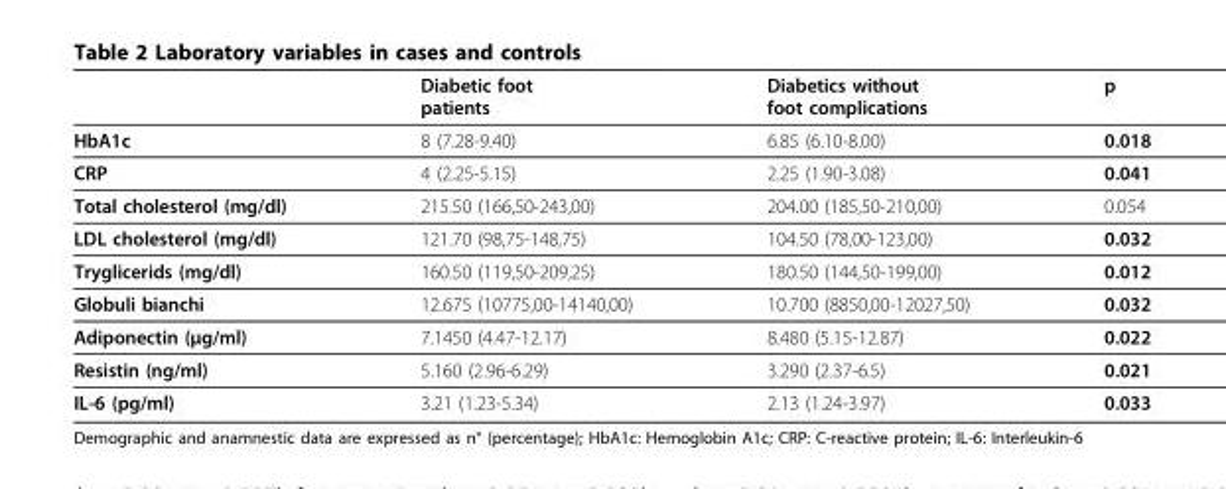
<table><thead><tr><td></td><td>Diabetic foot patients</td><td>Diabetics without foot complications</td><td>p</td></tr></thead><tbody><tr><td>HbA1c</td><td>8 (7.28-9.40)</td><td>6.85 (6.10-8.00)</td><td>0.018</td></tr><tr><td>CRP</td><td>4 (2.25-5.15)</td><td>2.25 (1.90-3.08)</td><td>0.041</td></tr><tr><td>Total cholesterol (mg/dl)</td><td>215.50 (166,50-243,00)</td><td>204.00 (185,50-210,00)</td><td>0.054</td></tr><tr><td>LDL cholesterol (mg/dl)</td><td>121.70 (98,75-148,75)</td><td>104.50 (78,00-123,00)</td><td>0.032</td></tr><tr><td>Tryglicerids (mg/dl)</td><td>160.50 (119,50-209,25)</td><td>180.50 (144,50-199,00)</td><td>0.012</td></tr><tr><td>Globuli bianchi</td><td>12.675 (10775,00-14140,00)</td><td>10.700 (8850,00-12027,50)</td><td>0.032</td></tr><tr><td>Adiponectin (μg/ml)</td><td>7.1450 (4.47-12.17)</td><td>8.480 (5.15-12.87)</td><td>0.022</td></tr><tr><td>Resistin (ng/ml)</td><td>5.160 (2.96-6.29)</td><td>3.290 (2.37-6.5)</td><td>0.021</td></tr><tr><td>IL-6 (pg/ml)</td><td>3.21 (1.23-5.34)</td><td>2.13 (1.24-3.97)</td><td>0.033</td></tr></tbody></table>